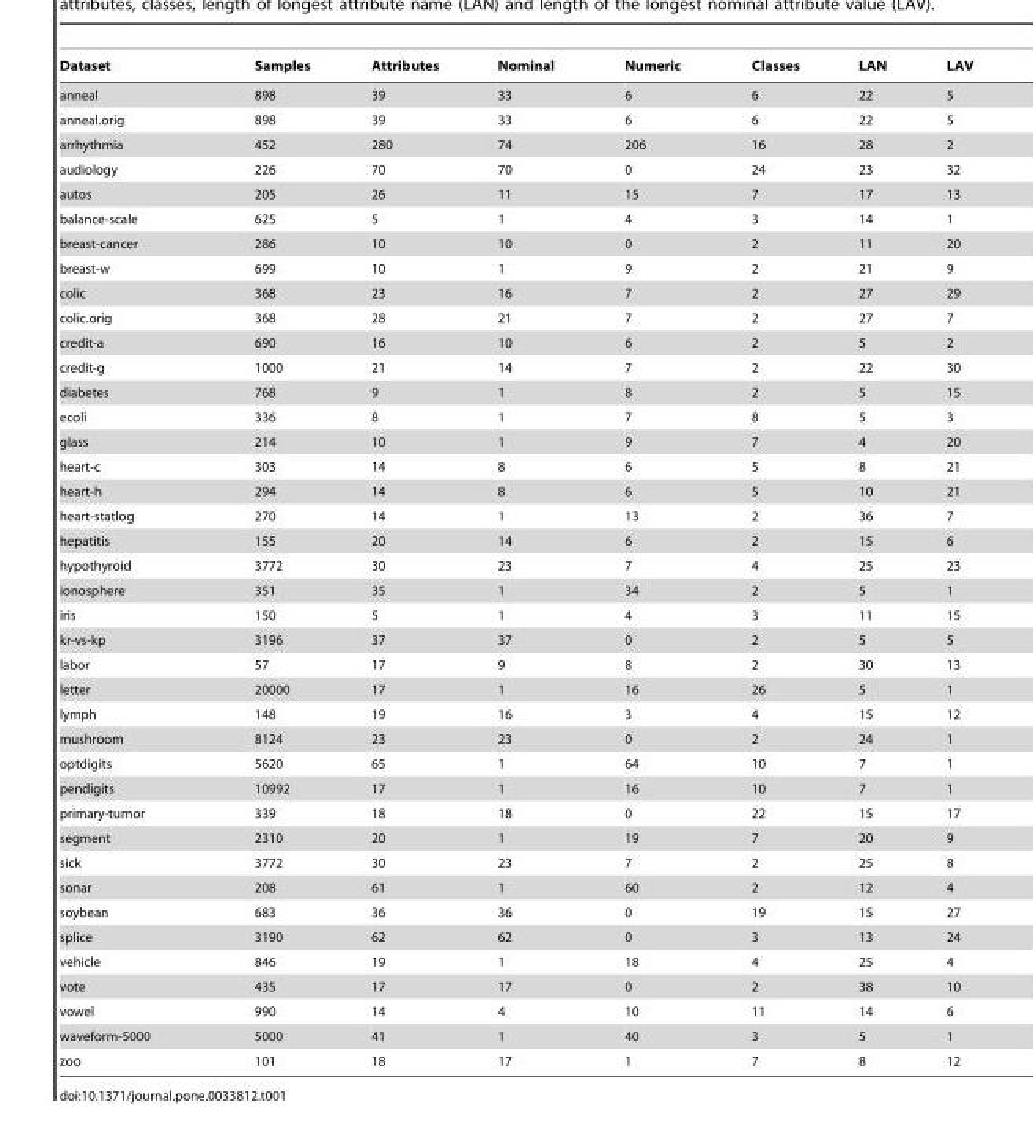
<table><thead><tr><td>Dataset</td><td>Samples</td><td>Attributes</td><td>Nominal</td><td>Numeric</td><td>Classes</td><td>LAN</td><td>LAV</td></tr></thead><tbody><tr><td>anneal</td><td>898</td><td>39</td><td>33</td><td>6</td><td>6</td><td>22</td><td>5</td></tr><tr><td>anneal.orig</td><td>898</td><td>39</td><td>33</td><td>6</td><td>6</td><td>22</td><td>5</td></tr><tr><td>arrhythmia</td><td>452</td><td>280</td><td>74</td><td>206</td><td>16</td><td>28</td><td>2</td></tr><tr><td>audiology</td><td>226</td><td>70</td><td>70</td><td>0</td><td>24</td><td>23</td><td>32</td></tr><tr><td>autos</td><td>205</td><td>26</td><td>11</td><td>15</td><td>7</td><td>17</td><td>13</td></tr><tr><td>balance-scale</td><td>625</td><td>5</td><td>1</td><td>4</td><td>3</td><td>14</td><td>1</td></tr><tr><td>breast-cancer</td><td>286</td><td>10</td><td>10</td><td>0</td><td>2</td><td>11</td><td>20</td></tr><tr><td>breast-w</td><td>699</td><td>10</td><td>1</td><td>9</td><td>2</td><td>21</td><td>9</td></tr><tr><td>colic</td><td>368</td><td>23</td><td>16</td><td>7</td><td>2</td><td>27</td><td>29</td></tr><tr><td>colic.orig</td><td>368</td><td>28</td><td>21</td><td>7</td><td>2</td><td>27</td><td>7</td></tr><tr><td>credit-a</td><td>690</td><td>16</td><td>10</td><td>6</td><td>2</td><td>5</td><td>2</td></tr><tr><td>credit-g</td><td>1000</td><td>21</td><td>14</td><td>7</td><td>2</td><td>22</td><td>30</td></tr><tr><td>diabetes</td><td>768</td><td>9</td><td>1</td><td>8</td><td>2</td><td>5</td><td>15</td></tr><tr><td>ecoli</td><td>336</td><td>8</td><td>1</td><td>7</td><td>8</td><td>5</td><td>3</td></tr><tr><td>glass</td><td>214</td><td>10</td><td>1</td><td>9</td><td>7</td><td>4</td><td>20</td></tr><tr><td>heart-c</td><td>303</td><td>14</td><td>8</td><td>6</td><td>5</td><td>8</td><td>21</td></tr><tr><td>heart-h</td><td>294</td><td>14</td><td>8</td><td>6</td><td>5</td><td>10</td><td>21</td></tr><tr><td>heart-statlog</td><td>270</td><td>14</td><td>1</td><td>13</td><td>2</td><td>36</td><td>7</td></tr><tr><td>hepatitis</td><td>155</td><td>20</td><td>14</td><td>6</td><td>2</td><td>15</td><td>6</td></tr><tr><td>hypothyroid</td><td>3772</td><td>30</td><td>23</td><td>7</td><td>4</td><td>25</td><td>23</td></tr><tr><td>ionosphere</td><td>351</td><td>35</td><td>1</td><td>34</td><td>2</td><td>5</td><td>1</td></tr><tr><td>iris</td><td>150</td><td>5</td><td>1</td><td>4</td><td>3</td><td>11</td><td>15</td></tr><tr><td>kr-vs-kp</td><td>3196</td><td>37</td><td>37</td><td>0</td><td>2</td><td>5</td><td>5</td></tr><tr><td>labor</td><td>57</td><td>17</td><td>9</td><td>8</td><td>2</td><td>30</td><td>13</td></tr><tr><td>letter</td><td>20000</td><td>17</td><td>1</td><td>16</td><td>26</td><td>5</td><td>1</td></tr><tr><td>lymph</td><td>148</td><td>19</td><td>16</td><td>3</td><td>4</td><td>15</td><td>12</td></tr><tr><td>mushroom</td><td>8124</td><td>23</td><td>23</td><td>0</td><td>2</td><td>24</td><td>1</td></tr><tr><td>optdigits</td><td>5620</td><td>65</td><td>1</td><td>64</td><td>10</td><td>7</td><td>1</td></tr><tr><td>pendigits</td><td>10992</td><td>17</td><td>1</td><td>16</td><td>10</td><td>7</td><td>1</td></tr><tr><td>primary-tumor</td><td>339</td><td>18</td><td>18</td><td>0</td><td>22</td><td>15</td><td>17</td></tr><tr><td>segment</td><td>2310</td><td>20</td><td>1</td><td>19</td><td>7</td><td>20</td><td>9</td></tr><tr><td>sick</td><td>3772</td><td>30</td><td>23</td><td>7</td><td>2</td><td>25</td><td>8</td></tr><tr><td>sonar</td><td>208</td><td>61</td><td>1</td><td>60</td><td>2</td><td>12</td><td>4</td></tr><tr><td>soybean</td><td>683</td><td>36</td><td>36</td><td>0</td><td>19</td><td>15</td><td>27</td></tr><tr><td>splice</td><td>3190</td><td>62</td><td>62</td><td>0</td><td>3</td><td>13</td><td>24</td></tr><tr><td>vehicle</td><td>846</td><td>19</td><td>1</td><td>18</td><td>4</td><td>25</td><td>4</td></tr><tr><td>vote</td><td>435</td><td>17</td><td>17</td><td>0</td><td>2</td><td>38</td><td>10</td></tr><tr><td>vowel</td><td>990</td><td>14</td><td>4</td><td>10</td><td>11</td><td>14</td><td>6</td></tr><tr><td>waveform-5000</td><td>5000</td><td>41</td><td>1</td><td>40</td><td>3</td><td>5</td><td>1</td></tr><tr><td>zoo</td><td>101</td><td>18</td><td>17</td><td>1</td><td>7</td><td>8</td><td>12</td></tr></tbody></table>